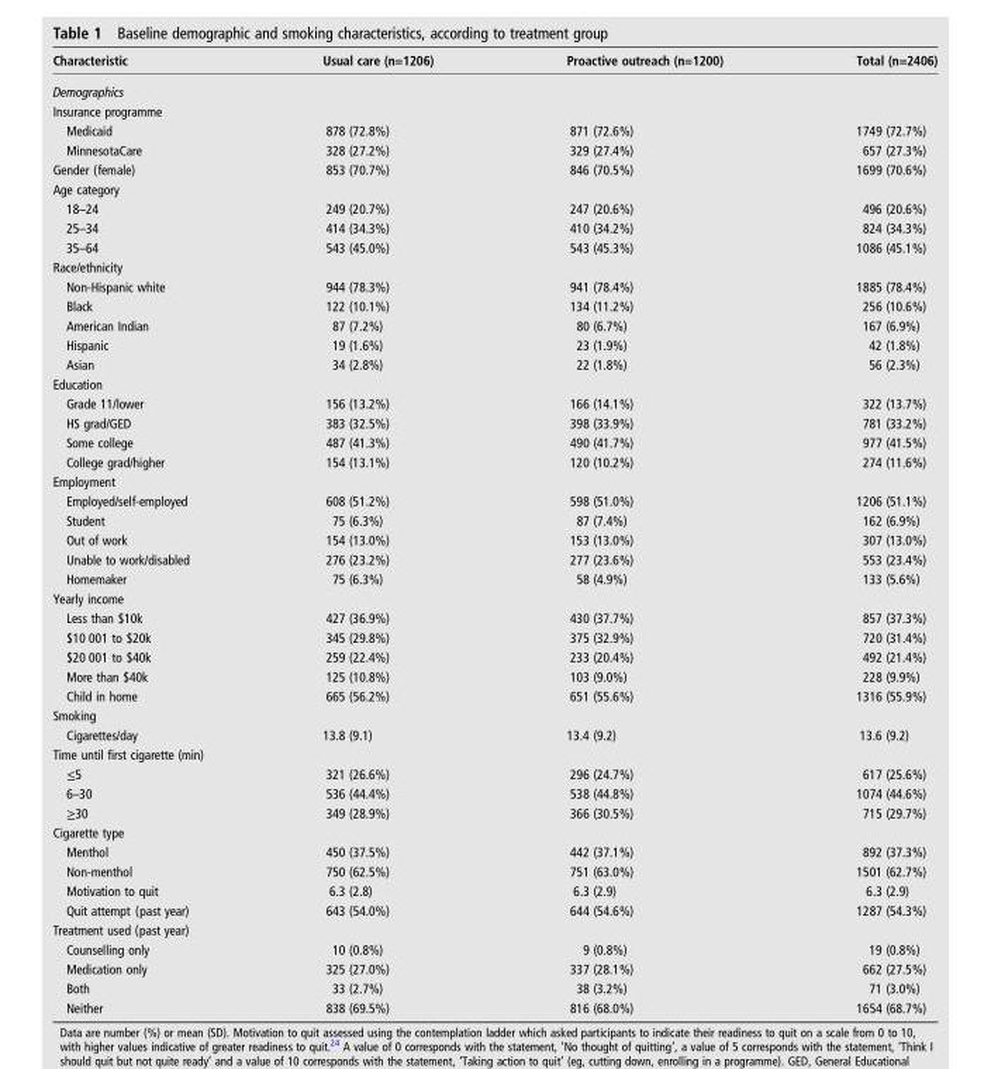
<table><thead><tr><td>Characteristic</td><td>Usual care (n=1206)</td><td>Proactive outreach (n=1200)</td><td>Total (n=2406)</td></tr></thead><tbody><tr><td colspan="4">Demographics</td></tr><tr><td colspan="4">Insurance programme</td></tr><tr><td>Medicaid</td><td>878 (72.8%)</td><td>871 (72.6%)</td><td>1749 (72.7%)</td></tr><tr><td>MinnesotaCare</td><td>328 (27.2%)</td><td>329 (27.4%)</td><td>657 (27.3%)</td></tr><tr><td>Gender (female)</td><td>853 (70.7%)</td><td>846 (70.5%)</td><td>1699 (70.6%)</td></tr><tr><td colspan="4">Age category</td></tr><tr><td>18–24</td><td>249 (20.7%)</td><td>247 (20.6%)</td><td>496 (20.6%)</td></tr><tr><td>25–34</td><td>414 (34.3%)</td><td>410 (34.2%)</td><td>824 (34.3%)</td></tr><tr><td>35–64</td><td>543 (45.0%)</td><td>543 (45.3%)</td><td>1086 (45.1%)</td></tr><tr><td colspan="4">Race/ethnicity</td></tr><tr><td>Non-Hispanic white</td><td>944 (78.3%)</td><td>941 (78.4%)</td><td>1885 (78.4%)</td></tr><tr><td>Black</td><td>122 (10.1%)</td><td>134 (11.2%)</td><td>256 (10.6%)</td></tr><tr><td>American Indian</td><td>87 (7.2%)</td><td>80 (6.7%)</td><td>167 (6.9%)</td></tr><tr><td>Hispanic</td><td>19 (1.6%)</td><td>23 (1.9%)</td><td>42 (1.8%)</td></tr><tr><td>Asian</td><td>34 (2.8%)</td><td>22 (1.8%)</td><td>56 (2.3%)</td></tr><tr><td colspan="4">Education</td></tr><tr><td>Grade 11/lower</td><td>156 (13.2%)</td><td>166 (14.1%)</td><td>322 (13.7%)</td></tr><tr><td>HS grad/GED</td><td>383 (32.5%)</td><td>398 (33.9%)</td><td>781 (33.2%)</td></tr><tr><td>Some college</td><td>487 (41.3%)</td><td>490 (41.7%)</td><td>977 (41.5%)</td></tr><tr><td>College grad/higher</td><td>154 (13.1%)</td><td>120 (10.2%)</td><td>274 (11.6%)</td></tr><tr><td colspan="4">Employment</td></tr><tr><td>Employed/self-employed</td><td>608 (51.2%)</td><td>598 (51.0%)</td><td>1206 (51.1%)</td></tr><tr><td>Student</td><td>75 (6.3%)</td><td>87 (7.4%)</td><td>162 (6.9%)</td></tr><tr><td>Out of work</td><td>154 (13.0%)</td><td>153 (13.0%)</td><td>307 (13.0%)</td></tr><tr><td>Unable to work/disabled</td><td>276 (23.2%)</td><td>277 (23.6%)</td><td>553 (23.4%)</td></tr><tr><td>Homemaker</td><td>75 (6.3%)</td><td>58 (4.9%)</td><td>133 (5.6%)</td></tr><tr><td colspan="4">Yearly income</td></tr><tr><td>Less than $10k</td><td>427 (36.9%)</td><td>430 (37.7%)</td><td>857 (37.3%)</td></tr><tr><td>$10 001 to $20k</td><td>345 (29.8%)</td><td>375 (32.9%)</td><td>720 (31.4%)</td></tr><tr><td>$20 001 to $40k</td><td>259 (22.4%)</td><td>233 (20.4%)</td><td>492 (21.4%)</td></tr><tr><td>More than $40k</td><td>125 (10.8%)</td><td>103 (9.0%)</td><td>228 (9.9%)</td></tr><tr><td>Child in home</td><td>665 (56.2%)</td><td>651 (55.6%)</td><td>1316 (55.9%)</td></tr><tr><td colspan="4">Smoking</td></tr><tr><td>Cigarettes/day</td><td>13.8 (9.1)</td><td>13.4 (9.2)</td><td>13.6 (9.2)</td></tr><tr><td colspan="4">Time until first cigarette (min)</td></tr><tr><td>≤5</td><td>321 (26.6%)</td><td>296 (24.7%)</td><td>617 (25.6%)</td></tr><tr><td>6–30</td><td>536 (44.4%)</td><td>538 (44.8%)</td><td>1074 (44.6%)</td></tr><tr><td>≥30</td><td>349 (28.9%)</td><td>366 (30.5%)</td><td>715 (29.7%)</td></tr><tr><td colspan="4">Cigarette type</td></tr><tr><td>Menthol</td><td>450 (37.5%)</td><td>442 (37.1%)</td><td>892 (37.3%)</td></tr><tr><td>Non-menthol</td><td>750 (62.5%)</td><td>751 (63.0%)</td><td>1501 (62.7%)</td></tr><tr><td>Motivation to quit</td><td>6.3 (2.8)</td><td>6.3 (2.9)</td><td>6.3 (2.9)</td></tr><tr><td>Quit attempt (past year)</td><td>643 (54.0%)</td><td>644 (54.6%)</td><td>1287 (54.3%)</td></tr><tr><td colspan="4">Treatment used (past year)</td></tr><tr><td>Counselling only</td><td>10 (0.8%)</td><td>9 (0.8%)</td><td>19 (0.8%)</td></tr><tr><td>Medication only</td><td>325 (27.0%)</td><td>337 (28.1%)</td><td>662 (27.5%)</td></tr><tr><td>Both</td><td>33 (2.7%)</td><td>38 (3.2%)</td><td>71 (3.0%)</td></tr><tr><td>Neither</td><td>838 (69.5%)</td><td>816 (68.0%)</td><td>1654 (68.7%)</td></tr></tbody></table>